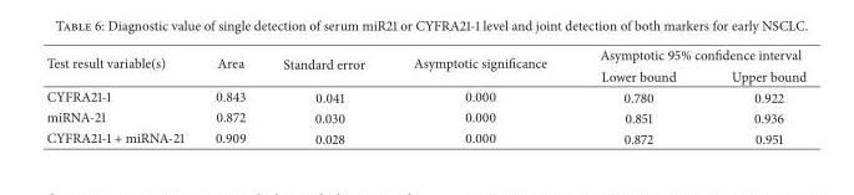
<table><thead><tr><td rowspan="2">Test result variable(s)</td><td rowspan="2">Area</td><td rowspan="2">Standard error</td><td rowspan="2">Asymptotic significance</td><td colspan="2">Asymptotic 95% confidence interval</td></tr><tr><td>Lower bound</td><td>Upper bound</td></tr></thead><tbody><tr><td>CYFRA21-1</td><td>0.843</td><td>0.041</td><td>0.000</td><td>0.780</td><td>0.922</td></tr><tr><td>miRNA-21</td><td>0.872</td><td>0.030</td><td>0.000</td><td>0.851</td><td>0.936</td></tr><tr><td>CYFRA21-1 + miRNA-21</td><td>0.909</td><td>0.028</td><td>0.000</td><td>0.872</td><td>0.951</td></tr></tbody></table>